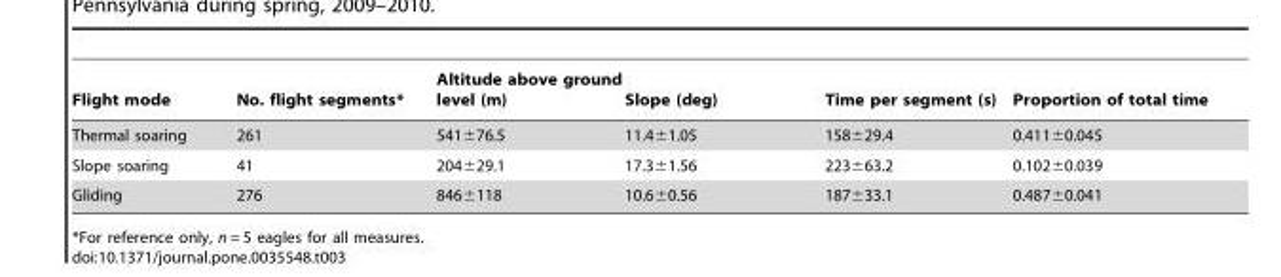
<table><thead><tr><td>Flight mode</td><td>No. flight segments*</td><td>Altitude above ground level (m)</td><td>Slope (deg)</td><td>Time per segment (s)</td><td>Proportion of total time</td></tr></thead><tbody><tr><td>Thermal soaring</td><td>261</td><td>541±76.5</td><td>11.4±1.05</td><td>158±29.4</td><td>0.411±0.045</td></tr><tr><td>Slope soaring</td><td>41</td><td>204±29.1</td><td>17.3±1.56</td><td>223±63.2</td><td>0.102±0.039</td></tr><tr><td>Gliding</td><td>276</td><td>846±118</td><td>10.6±0.56</td><td>187±33.1</td><td>0.487±0.041</td></tr></tbody></table>